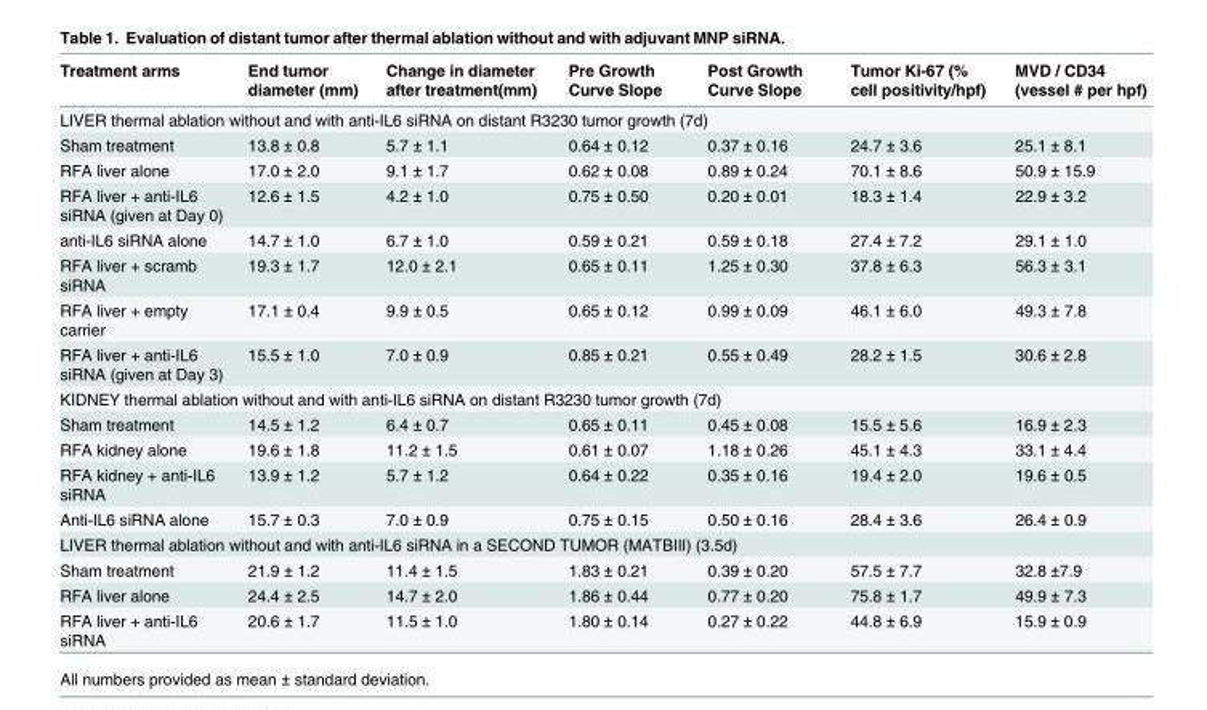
<table><thead><tr><td>Treatment arms</td><td>End tumor diameter (mm)</td><td>Change in diameter after treatment(mm)</td><td>Pre Growth Curve Slope</td><td>Post Growth Curve Slope</td><td>Tumor Ki-67 (% cell positivity/hpf)</td><td>MVD / CD34 (vessel # per hpf)</td></tr></thead><tbody><tr><td colspan="7">LIVER thermal ablation without and with anti-IL6 siRNA on distant R3230 tumor growth (7d)</td></tr><tr><td>Sham treatment</td><td>13.8 ± 0.8</td><td>5.7 ± 1.1</td><td>0.64 ± 0.12</td><td>0.37 ± 0.16</td><td>24.7 ± 3.6</td><td>25.1 ± 8.1</td></tr><tr><td>RFA liver alone</td><td>17.0 ± 2.0</td><td>9.1 ± 1.7</td><td>0.62 ± 0.08</td><td>0.89 ± 0.24</td><td>70.1 ± 8.6</td><td>50.9 ± 15.9</td></tr><tr><td>RFA liver + anti-IL6 siRNA (given at Day 0)</td><td>12.6 ± 1.5</td><td>4.2 ± 1.0</td><td>0.75 ± 0.50</td><td>0.20 ± 0.01</td><td>18.3 ± 1.4</td><td>22.9 ± 3.2</td></tr><tr><td>anti-IL6 siRNA alone</td><td>14.7 ± 1.0</td><td>6.7 ± 1.0</td><td>0.59 ± 0.21</td><td>0.59 ± 0.18</td><td>27.4 ± 7.2</td><td>29.1 ± 1.0</td></tr><tr><td>RFA liver + scramb siRNA</td><td>19.3 ± 1.7</td><td>12.0 ± 2.1</td><td>0.65 ± 0.11</td><td>1.25 ± 0.30</td><td>37.8 ± 6.3</td><td>56.3 ± 3.1</td></tr><tr><td>RFA liver + empty carrier</td><td>17.1 ± 0.4</td><td>9.9 ± 0.5</td><td>0.65 ± 0.12</td><td>0.99 ± 0.09</td><td>46.1 ± 6.0</td><td>49.3 ± 7.8</td></tr><tr><td>RFA liver + anti-IL6 siRNA (given at Day 3)</td><td>15.5 ± 1.0</td><td>7.0 ± 0.9</td><td>0.85 ± 0.21</td><td>0.55 ± 0.49</td><td>28.2 ± 1.5</td><td>30.6 ± 2.8</td></tr><tr><td colspan="7">KIDNEY thermal ablation without and with anti-IL6 siRNA on distant R3230 tumor growth (7d)</td></tr><tr><td>Sham treatment</td><td>14.5 ± 1.2</td><td>6.4 ± 0.7</td><td>0.65 ± 0.11</td><td>0.45 ± 0.08</td><td>15.5 ± 5.6</td><td>16.9 ± 2.3</td></tr><tr><td>RFA kidney alone</td><td>19.6 ± 1.8</td><td>11.2 ± 1.5</td><td>0.61 ± 0.07</td><td>1.18 ± 0.26</td><td>45.1 ± 4.3</td><td>33.1 ± 4.4</td></tr><tr><td>RFA kidney + anti-IL6 siRNA</td><td>13.9 ± 1.2</td><td>5.7 ± 1.2</td><td>0.64 ± 0.22</td><td>0.35 ± 0.16</td><td>19.4 ± 2.0</td><td>19.6 ± 0.5</td></tr><tr><td>Anti-IL6 siRNA alone</td><td>15.7 ± 0.3</td><td>7.0 ± 0.9</td><td>0.75 ± 0.15</td><td>0.50 ± 0.16</td><td>28.4 ± 3.6</td><td>26.4 ± 0.9</td></tr><tr><td colspan="7">LIVER thermal ablation without and with anti-IL6 siRNA in a SECOND TUMOR (MATBIII) (3.5d)</td></tr><tr><td>Sham treatment</td><td>21.9 ± 1.2</td><td>11.4 ± 1.5</td><td>1.83 ± 0.21</td><td>0.39 ± 0.20</td><td>57.5 ± 7.7</td><td>32.8 ±7.9</td></tr><tr><td>RFA liver alone</td><td>24.4 ± 2.5</td><td>14.7 ± 2.0</td><td>1.86 ± 0.44</td><td>0.77 ± 0.20</td><td>75.8 ± 1.7</td><td>49.9 ± 7.3</td></tr><tr><td>RFA liver + anti-IL6 siRNA</td><td>20.6 ± 1.7</td><td>11.5 ± 1.0</td><td>1.80 ± 0.14</td><td>0.27 ± 0.22</td><td>44.8 ± 6.9</td><td>15.9 ± 0.9</td></tr></tbody></table>